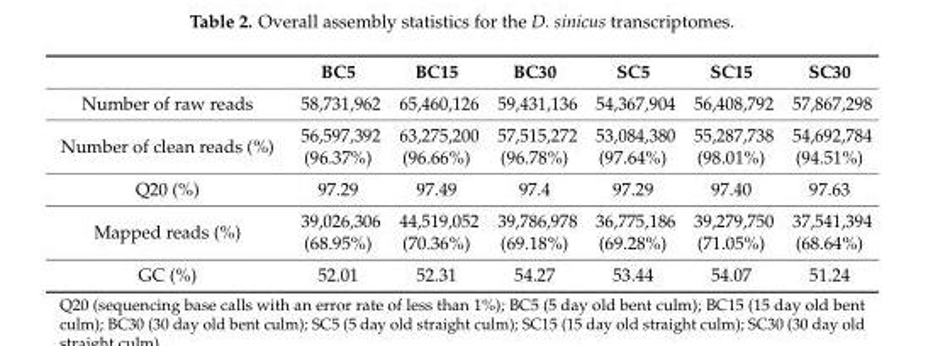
<table><thead><tr><td></td><td>BC5</td><td>BC15</td><td>BC30</td><td>SC5</td><td>SC15</td><td>SC30</td></tr></thead><tbody><tr><td>Number of raw reads</td><td>58,731,962</td><td>65,460,126</td><td>59,431,136</td><td>54,367,904</td><td>56,408,792</td><td>57,867,298</td></tr><tr><td>Number of clean reads (%)</td><td>56,597,392 (96.37%)</td><td>63,275,200 (96.66%)</td><td>57,515,272 (96.78%)</td><td>53,084,380 (97.64%)</td><td>55,287,738 (98.01%)</td><td>54,692,784 (94.51%)</td></tr><tr><td>Q20 (%)</td><td>97.29</td><td>97.49</td><td>97.4</td><td>97.29</td><td>97.40</td><td>97.63</td></tr><tr><td>Mapped reads (%)</td><td>39,026,306 (68.95%)</td><td>44,519,052 (70.36%)</td><td>39,786,978 (69.18%)</td><td>36,775,186 (69.28%)</td><td>39,279,750 (71.05%)</td><td>37,541,394 (68.64%)</td></tr><tr><td>GC (%)</td><td>52.01</td><td>52.31</td><td>54.27</td><td>53.44</td><td>54.07</td><td>51.24</td></tr></tbody></table>